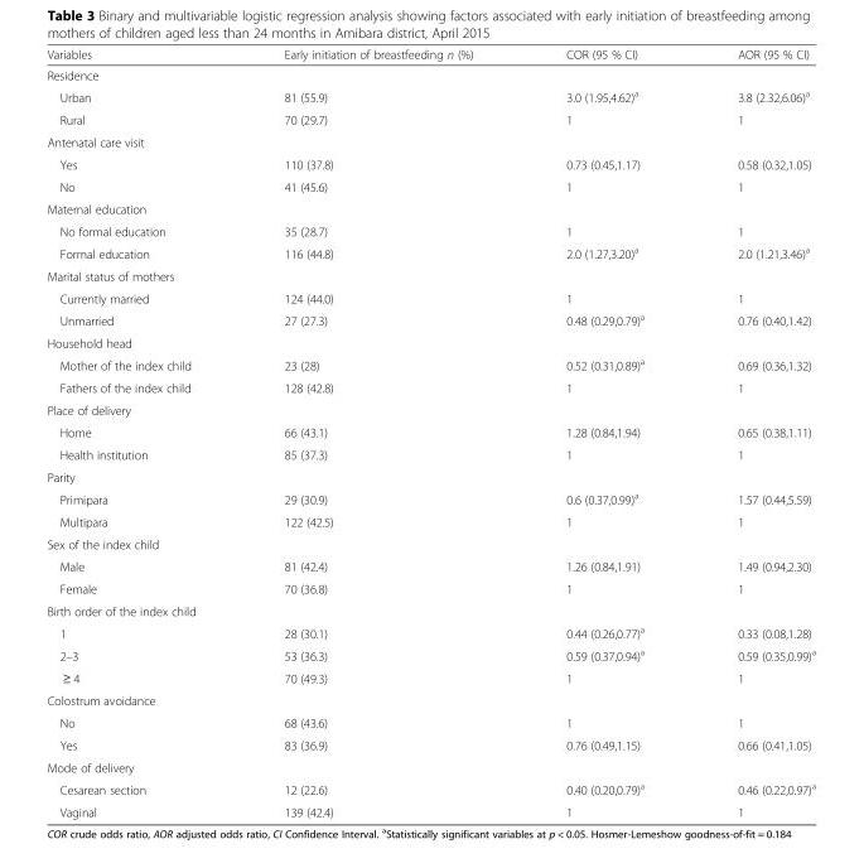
<table><thead><tr><td>Variables</td><td>Early initiation of breastfeeding n (%)</td><td>COR (95 % CI)</td><td>AOR (95 % CI)</td></tr></thead><tbody><tr><td colspan="4">Residence</td></tr><tr><td>Urban</td><td>81 (55.9)</td><td>3.0 (1.95,4.62)<sup>a</sup></td><td>3.8 (2.32,6.06)<sup>a</sup></td></tr><tr><td>Rural</td><td>70 (29.7)</td><td>1</td><td>1</td></tr><tr><td colspan="4">Antenatal care visit</td></tr><tr><td>Yes</td><td>110 (37.8)</td><td>0.73 (0.45,1.17)</td><td>0.58 (0.32,1.05)</td></tr><tr><td>No</td><td>41 (45.6)</td><td>1</td><td>1</td></tr><tr><td colspan="4">Maternal education</td></tr><tr><td>No formal education</td><td>35 (28.7)</td><td>1</td><td>1</td></tr><tr><td>Formal education</td><td>116 (44.8)</td><td>2.0 (1.27,3.20)<sup>a</sup></td><td>2.0 (1.21,3.46)<sup>a</sup></td></tr><tr><td colspan="4">Marital status of mothers</td></tr><tr><td>Currently married</td><td>124 (44.0)</td><td>1</td><td>1</td></tr><tr><td>Unmarried</td><td>27 (27.3)</td><td>0.48 (0.29,0.79)<sup>a</sup></td><td>0.76 (0.40,1.42)</td></tr><tr><td colspan="4">Household head</td></tr><tr><td>Mother of the index child</td><td>23 (28)</td><td>0.52 (0.31,0.89)<sup>a</sup></td><td>0.69 (0.36,1.32)</td></tr><tr><td>Fathers of the index child</td><td>128 (42.8)</td><td>1</td><td>1</td></tr><tr><td colspan="4">Place of delivery</td></tr><tr><td>Home</td><td>66 (43.1)</td><td>1.28 (0.84,1.94)</td><td>0.65 (0.38,1.11)</td></tr><tr><td>Health institution</td><td>85 (37.3)</td><td>1</td><td>1</td></tr><tr><td colspan="4">Parity</td></tr><tr><td>Primipara</td><td>29 (30.9)</td><td>0.6 (0.37,0.99)<sup>a</sup></td><td>1.57 (0.44,5.59)</td></tr><tr><td>Multipara</td><td>122 (42.5)</td><td>1</td><td>1</td></tr><tr><td colspan="4">Sex of the index child</td></tr><tr><td>Male</td><td>81 (42.4)</td><td>1.26 (0.84,1.91)</td><td>1.49 (0.94,2.30)</td></tr><tr><td>Female</td><td>70 (36.8)</td><td>1</td><td>1</td></tr><tr><td colspan="4">Birth order of the index child</td></tr><tr><td>1</td><td>28 (30.1)</td><td>0.44 (0.26,0.77)<sup>a</sup></td><td>0.33 (0.08,1.28)</td></tr><tr><td>2–3</td><td>53 (36.3)</td><td>0.59 (0.37,0.94)<sup>a</sup></td><td>0.59 (0.35,0.99)<sup>a</sup></td></tr><tr><td>≥ 4</td><td>70 (49.3)</td><td>1</td><td>1</td></tr><tr><td colspan="4">Colostrum avoidance</td></tr><tr><td>No</td><td>68 (43.6)</td><td>1</td><td>1</td></tr><tr><td>Yes</td><td>83 (36.9)</td><td>0.76 (0.49,1.15)</td><td>0.66 (0.41,1.05)</td></tr><tr><td colspan="4">Mode of delivery</td></tr><tr><td>Cesarean section</td><td>12 (22.6)</td><td>0.40 (0.20,0.79)<sup>a</sup></td><td>0.46 (0.22,0.97)<sup>a</sup></td></tr><tr><td>Vaginal</td><td>139 (42.4)</td><td>1</td><td>1</td></tr></tbody></table>